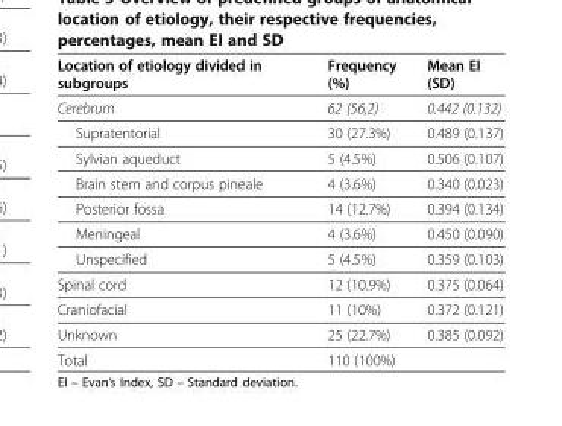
<table><thead><tr><td>Location of etiology divided in subgroups</td><td>Frequency (%)</td><td>Mean EI (SD)</td></tr></thead><tbody><tr><td>Cerebrum</td><td>62 (56,2)</td><td>0.442 (0.132)</td></tr><tr><td>Supratentorial</td><td>30 (27.3%)</td><td>0.489 (0.137)</td></tr><tr><td>Sylvian aqueduct</td><td>5 (4.5%)</td><td>0.506 (0.107)</td></tr><tr><td>Brain stem and corpus pineale</td><td>4 (3.6%)</td><td>0.340 (0.023)</td></tr><tr><td>Posterior fossa</td><td>14 (12.7%)</td><td>0.394 (0.134)</td></tr><tr><td>Meningeal</td><td>4 (3.6%)</td><td>0.450 (0.090)</td></tr><tr><td>Unspecified</td><td>5 (4.5%)</td><td>0.359 (0.103)</td></tr><tr><td>Spinal cord</td><td>12 (10.9%)</td><td>0.375 (0.064)</td></tr><tr><td>Craniofacial</td><td>11 (10%)</td><td>0.372 (0.121)</td></tr><tr><td>Unknown</td><td>25 (22.7%)</td><td>0.385 (0.092)</td></tr><tr><td>Total</td><td>110 (100%)</td><td></td></tr></tbody></table>